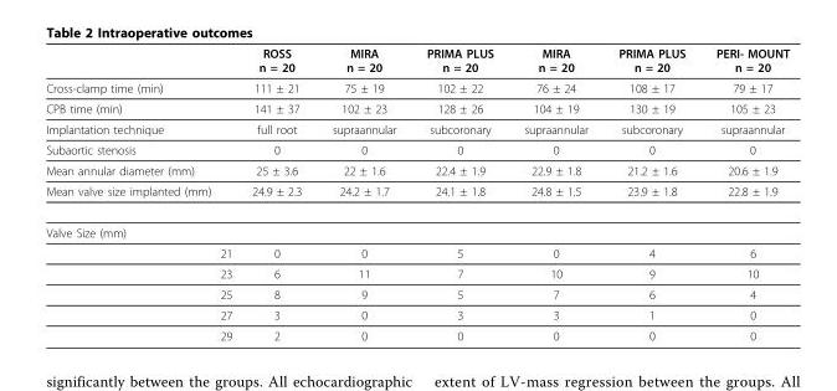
<table><thead><tr><td></td><td>ROSS n = 20</td><td>MIRA n = 20</td><td>PRIMA PLUS n = 20</td><td>MIRA n = 20</td><td>PRIMA PLUS n = 20</td><td>PERI- MOUNT n = 20</td></tr></thead><tbody><tr><td>Cross-clamp time (min)</td><td>111 ± 21</td><td>75 ± 19</td><td>102 ± 22</td><td>76 ± 24</td><td>108 ± 17</td><td>79 ± 17</td></tr><tr><td>CPB time (min)</td><td>141 ± 37</td><td>102 ± 23</td><td>128 ± 26</td><td>104 ± 19</td><td>130 ± 19</td><td>105 ± 23</td></tr><tr><td>Implantation technique</td><td>full root</td><td>supraannular</td><td>subcoronary</td><td>supraannular</td><td>subcoronary</td><td>supraannular</td></tr><tr><td>Subaortic stenosis</td><td>0</td><td>0</td><td>0</td><td>0</td><td>0</td><td>0</td></tr><tr><td>Mean annular diameter (mm)</td><td>25 ± 3.6</td><td>22 ± 1.6</td><td>22.4 ± 1.9</td><td>22.9 ± 1.8</td><td>21.2 ± 1.6</td><td>20.6 ± 1.9</td></tr><tr><td>Mean valve size implanted (mm)</td><td>24.9 ± 2.3</td><td>24.2 ± 1.7</td><td>24.1 ± 1.8</td><td>24.8 ± 1.5</td><td>23.9 ± 1.8</td><td>22.8 ± 1.9</td></tr><tr><td colspan="7">Valve Size (mm)</td></tr><tr><td>21</td><td>0</td><td>0</td><td>5</td><td>0</td><td>4</td><td>6</td></tr><tr><td>23</td><td>6</td><td>11</td><td>7</td><td>10</td><td>9</td><td>10</td></tr><tr><td>25</td><td>8</td><td>9</td><td>5</td><td>7</td><td>6</td><td>4</td></tr><tr><td>27</td><td>3</td><td>0</td><td>3</td><td>3</td><td>1</td><td>0</td></tr><tr><td>29</td><td>2</td><td>0</td><td>0</td><td>0</td><td>0</td><td>0</td></tr></tbody></table>